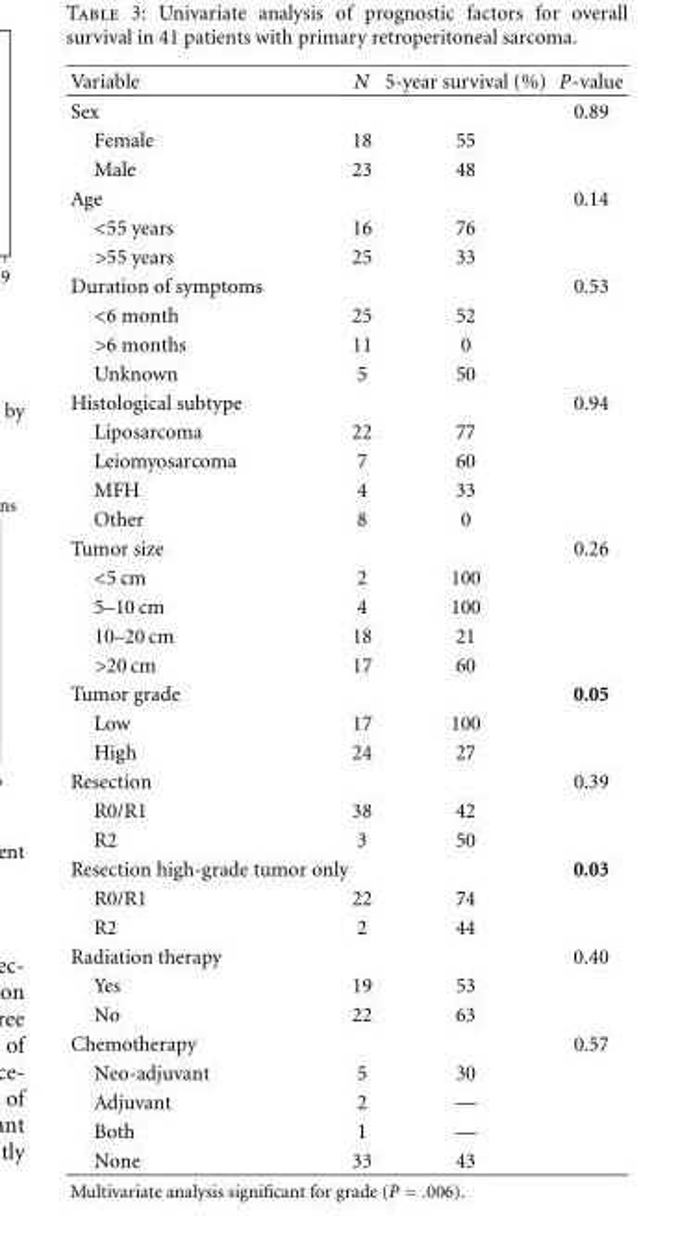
<table><thead><tr><td>Variable</td><td>N</td><td>5-year survival (%)</td><td>P-value</td></tr></thead><tbody><tr><td>Sex</td><td></td><td></td><td>0.89</td></tr><tr><td>Female</td><td>18</td><td>55</td><td></td></tr><tr><td>Male</td><td>23</td><td>48</td><td></td></tr><tr><td>Age</td><td></td><td></td><td>0.14</td></tr><tr><td>&lt;55 years</td><td>16</td><td>76</td><td></td></tr><tr><td>&gt;55 years</td><td>25</td><td>33</td><td></td></tr><tr><td>Duration of symptoms</td><td></td><td></td><td>0.53</td></tr><tr><td>&lt;6 month</td><td>25</td><td>52</td><td></td></tr><tr><td>&gt;6 months</td><td>11</td><td>0</td><td></td></tr><tr><td>Unknown</td><td>5</td><td>50</td><td></td></tr><tr><td>Histological subtype</td><td></td><td></td><td>0.94</td></tr><tr><td>Liposarcoma</td><td>22</td><td>77</td><td></td></tr><tr><td>Leiomyosarcoma</td><td>7</td><td>60</td><td></td></tr><tr><td>MFH</td><td>4</td><td>33</td><td></td></tr><tr><td>Other</td><td>8</td><td>0</td><td></td></tr><tr><td>Tumor size</td><td></td><td></td><td>0.26</td></tr><tr><td>&lt;5 cm</td><td>2</td><td>100</td><td></td></tr><tr><td>5–10 cm</td><td>4</td><td>100</td><td></td></tr><tr><td>10–20 cm</td><td>18</td><td>21</td><td></td></tr><tr><td>&gt;20 cm</td><td>17</td><td>60</td><td></td></tr><tr><td>Tumor grade</td><td></td><td></td><td>0.05</td></tr><tr><td>Low</td><td>17</td><td>100</td><td></td></tr><tr><td>High</td><td>24</td><td>27</td><td></td></tr><tr><td>Resection</td><td></td><td></td><td>0.39</td></tr><tr><td>R0/R1</td><td>38</td><td>42</td><td></td></tr><tr><td>R2</td><td>3</td><td>50</td><td></td></tr><tr><td>Resection high-grade tumor only</td><td></td><td></td><td>0.03</td></tr><tr><td>R0/R1</td><td>22</td><td>74</td><td></td></tr><tr><td>R2</td><td>2</td><td>44</td><td></td></tr><tr><td>Radiation therapy</td><td></td><td></td><td>0.40</td></tr><tr><td>Yes</td><td>19</td><td>53</td><td></td></tr><tr><td>No</td><td>22</td><td>63</td><td></td></tr><tr><td>Chemotherapy</td><td></td><td></td><td>0.57</td></tr><tr><td>Neo-adjuvant</td><td>5</td><td>30</td><td></td></tr><tr><td>Adjuvant</td><td>2</td><td>—</td><td></td></tr><tr><td>Both</td><td>1</td><td>—</td><td></td></tr><tr><td>None</td><td>33</td><td>43</td><td></td></tr></tbody></table>